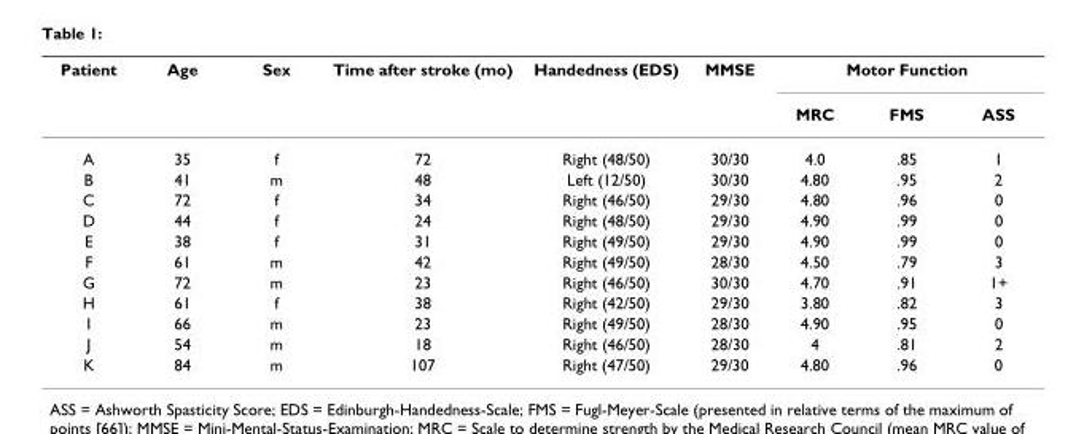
<table><thead><tr><td rowspan="2">Patient</td><td rowspan="2">Age</td><td rowspan="2">Sex</td><td rowspan="2">Time after stroke (mo)</td><td rowspan="2">Handedness (EDS)</td><td rowspan="2">MMSE</td><td colspan="3">Motor Function</td></tr><tr><td>MRC</td><td>FMS</td><td>ASS</td></tr></thead><tbody><tr><td>A</td><td>35</td><td>f</td><td>72</td><td>Right (48/50)</td><td>30/30</td><td>4.0</td><td>.85</td><td>1</td></tr><tr><td>B</td><td>41</td><td>m</td><td>48</td><td>Left (12/50)</td><td>30/30</td><td>4.80</td><td>.95</td><td>2</td></tr><tr><td>C</td><td>72</td><td>f</td><td>34</td><td>Right (46/50)</td><td>29/30</td><td>4.80</td><td>.96</td><td>0</td></tr><tr><td>D</td><td>44</td><td>f</td><td>24</td><td>Right (48/50)</td><td>29/30</td><td>4.90</td><td>.99</td><td>0</td></tr><tr><td>E</td><td>38</td><td>f</td><td>31</td><td>Right (49/50)</td><td>29/30</td><td>4.90</td><td>.99</td><td>0</td></tr><tr><td>F</td><td>61</td><td>m</td><td>42</td><td>Right (49/50)</td><td>28/30</td><td>4.50</td><td>.79</td><td>3</td></tr><tr><td>G</td><td>72</td><td>m</td><td>23</td><td>Right (46/50)</td><td>30/30</td><td>4.70</td><td>.91</td><td>1+</td></tr><tr><td>H</td><td>61</td><td>f</td><td>38</td><td>Right (42/50)</td><td>29/30</td><td>3.80</td><td>.82</td><td>3</td></tr><tr><td>I</td><td>66</td><td>m</td><td>23</td><td>Right (49/50)</td><td>28/30</td><td>4.90</td><td>.95</td><td>0</td></tr><tr><td>J</td><td>54</td><td>m</td><td>18</td><td>Right (46/50)</td><td>28/30</td><td>4</td><td>.81</td><td>2</td></tr><tr><td>K</td><td>84</td><td>m</td><td>107</td><td>Right (47/50)</td><td>29/30</td><td>4.80</td><td>.96</td><td>0</td></tr></tbody></table>